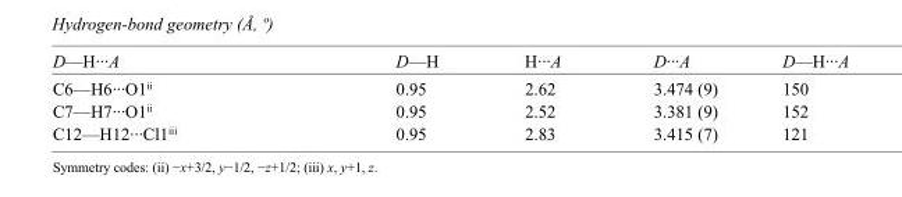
<table><tbody><tr><td>D—H···A</td><td>D—H</td><td>H···A</td><td>D···A</td><td>D—H···A</td></tr><tr><td>C6—H6···O1<sup>ii</sup></td><td>0.95</td><td>2.62</td><td>3.474 (9)</td><td>150</td></tr><tr><td>C7—H7···O1<sup>ii</sup></td><td>0.95</td><td>2.52</td><td>3.381 (9)</td><td>152</td></tr><tr><td>C12—H12···Cl1<sup>iii</sup></td><td>0.95</td><td>2.83</td><td>3.415 (7)</td><td>121</td></tr></tbody></table>